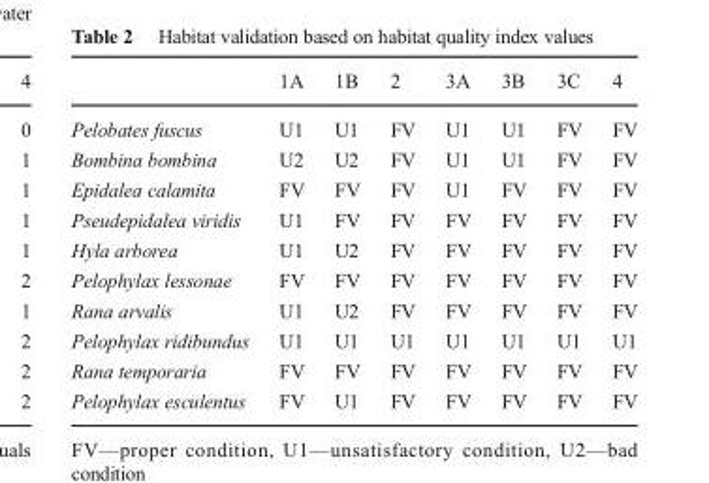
<table><thead><tr><td></td><td>1A</td><td>1B</td><td>2</td><td>3A</td><td>3B</td><td>3C</td><td>4</td></tr></thead><tbody><tr><td>Pelobates fuscus</td><td>U1</td><td>U1</td><td>FV</td><td>U1</td><td>U1</td><td>FV</td><td>FV</td></tr><tr><td>Bombina bombina</td><td>U2</td><td>U2</td><td>FV</td><td>U1</td><td>U1</td><td>FV</td><td>FV</td></tr><tr><td>Epidalea calamita</td><td>FV</td><td>FV</td><td>FV</td><td>U1</td><td>FV</td><td>FV</td><td>FV</td></tr><tr><td>Pseudepidalea viridis</td><td>U1</td><td>FV</td><td>FV</td><td>FV</td><td>FV</td><td>FV</td><td>FV</td></tr><tr><td>Hyla arborea</td><td>U1</td><td>U2</td><td>FV</td><td>FV</td><td>FV</td><td>FV</td><td>FV</td></tr><tr><td>Pelophylax lessonae</td><td>FV</td><td>FV</td><td>FV</td><td>FV</td><td>FV</td><td>FV</td><td>FV</td></tr><tr><td>Rana arvalis</td><td>U1</td><td>U2</td><td>FV</td><td>FV</td><td>FV</td><td>FV</td><td>FV</td></tr><tr><td>Pelophylax ridibundus</td><td>U1</td><td>U1</td><td>U1</td><td>U1</td><td>U1</td><td>U1</td><td>U1</td></tr><tr><td>Rana temporaria</td><td>FV</td><td>FV</td><td>FV</td><td>FV</td><td>FV</td><td>FV</td><td>FV</td></tr><tr><td>Pelophylax esculentus</td><td>FV</td><td>U1</td><td>FV</td><td>FV</td><td>FV</td><td>FV</td><td>FV</td></tr></tbody></table>